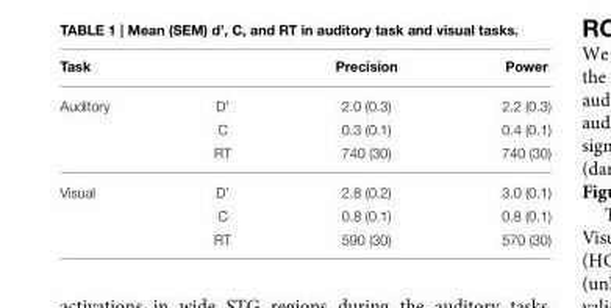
<table><thead><tr><td>Task</td><td></td><td>Precision</td><td>Power</td></tr></thead><tbody><tr><td rowspan="3">Auditory</td><td>D’</td><td>2.0 (0.3)</td><td>2.2 (0.3)</td></tr><tr><td>C</td><td>0.3 (0.1)</td><td>0.4 (0.1)</td></tr><tr><td>RT</td><td>740 (30)</td><td>740 (30)</td></tr><tr><td rowspan="3">Visual</td><td>D’</td><td>2.8 (0.2)</td><td>3.0 (0.1)</td></tr><tr><td>C</td><td>0.8 (0.1)</td><td>0.8 (0.1)</td></tr><tr><td>RT</td><td>590 (30)</td><td>570 (30)</td></tr></tbody></table>